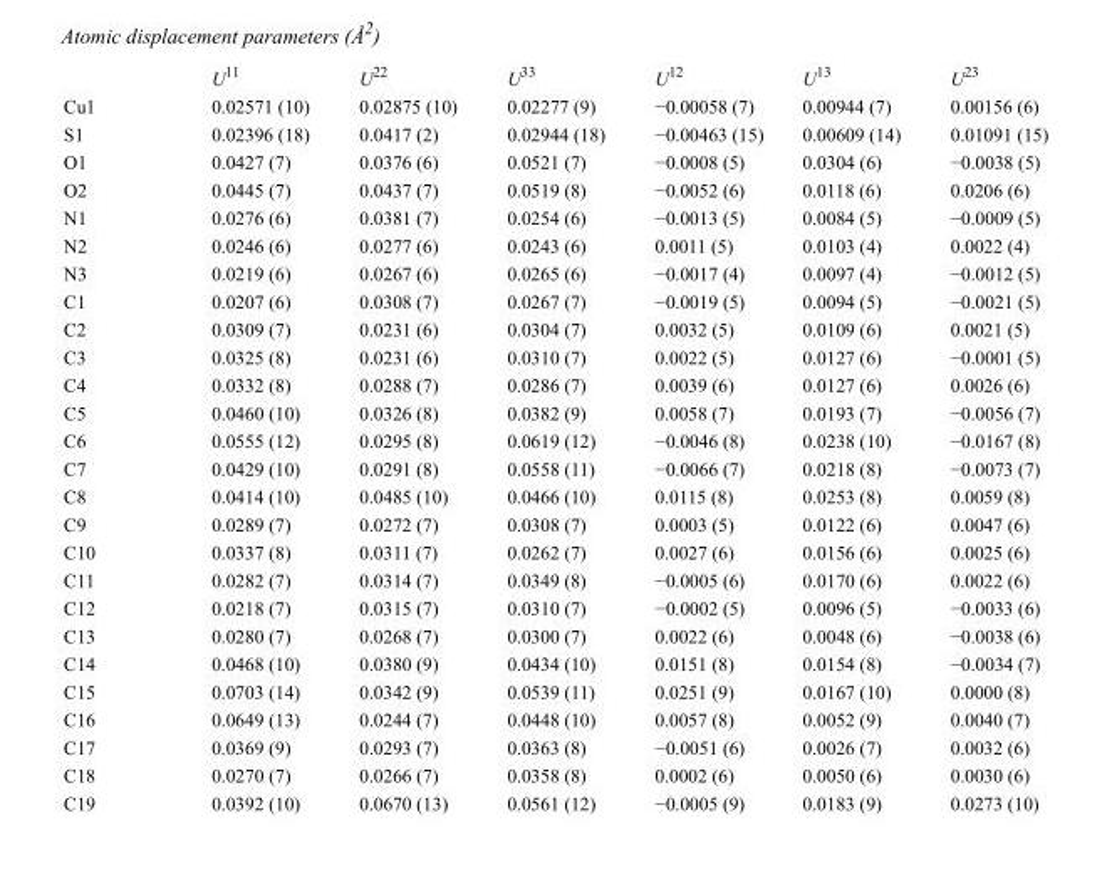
<table><thead><tr><td></td><td>U<sup>11</sup></td><td>U<sup>22</sup></td><td>U<sup>33</sup></td><td>U<sup>12</sup></td><td>U<sup>13</sup></td><td>U<sup>23</sup></td></tr></thead><tbody><tr><td>Cu1</td><td>0.02571 (10)</td><td>0.02875 (10)</td><td>0.02277 (9)</td><td>−0.00058 (7)</td><td>0.00944 (7)</td><td>0.00156 (6)</td></tr><tr><td>S1</td><td>0.02396 (18)</td><td>0.0417 (2)</td><td>0.02944 (18)</td><td>−0.00463 (15)</td><td>0.00609 (14)</td><td>0.01091 (15)</td></tr><tr><td>O1</td><td>0.0427 (7)</td><td>0.0376 (6)</td><td>0.0521 (7)</td><td>−0.0008 (5)</td><td>0.0304 (6)</td><td>−0.0038 (5)</td></tr><tr><td>O2</td><td>0.0445 (7)</td><td>0.0437 (7)</td><td>0.0519 (8)</td><td>−0.0052 (6)</td><td>0.0118 (6)</td><td>0.0206 (6)</td></tr><tr><td>N1</td><td>0.0276 (6)</td><td>0.0381 (7)</td><td>0.0254 (6)</td><td>−0.0013 (5)</td><td>0.0084 (5)</td><td>−0.0009 (5)</td></tr><tr><td>N2</td><td>0.0246 (6)</td><td>0.0277 (6)</td><td>0.0243 (6)</td><td>0.0011 (5)</td><td>0.0103 (4)</td><td>0.0022 (4)</td></tr><tr><td>N3</td><td>0.0219 (6)</td><td>0.0267 (6)</td><td>0.0265 (6)</td><td>−0.0017 (4)</td><td>0.0097 (4)</td><td>−0.0012 (5)</td></tr><tr><td>C1</td><td>0.0207 (6)</td><td>0.0308 (7)</td><td>0.0267 (7)</td><td>−0.0019 (5)</td><td>0.0094 (5)</td><td>−0.0021 (5)</td></tr><tr><td>C2</td><td>0.0309 (7)</td><td>0.0231 (6)</td><td>0.0304 (7)</td><td>0.0032 (5)</td><td>0.0109 (6)</td><td>0.0021 (5)</td></tr><tr><td>C3</td><td>0.0325 (8)</td><td>0.0231 (6)</td><td>0.0310 (7)</td><td>0.0022 (5)</td><td>0.0127 (6)</td><td>−0.0001 (5)</td></tr><tr><td>C4</td><td>0.0332 (8)</td><td>0.0288 (7)</td><td>0.0286 (7)</td><td>0.0039 (6)</td><td>0.0127 (6)</td><td>0.0026 (6)</td></tr><tr><td>C5</td><td>0.0460 (10)</td><td>0.0326 (8)</td><td>0.0382 (9)</td><td>0.0058 (7)</td><td>0.0193 (7)</td><td>−0.0056 (7)</td></tr><tr><td>C6</td><td>0.0555 (12)</td><td>0.0295 (8)</td><td>0.0619 (12)</td><td>−0.0046 (8)</td><td>0.0238 (10)</td><td>−0.0167 (8)</td></tr><tr><td>C7</td><td>0.0429 (10)</td><td>0.0291 (8)</td><td>0.0558 (11)</td><td>−0.0066 (7)</td><td>0.0218 (8)</td><td>−0.0073 (7)</td></tr><tr><td>C8</td><td>0.0414 (10)</td><td>0.0485 (10)</td><td>0.0466 (10)</td><td>0.0115 (8)</td><td>0.0253 (8)</td><td>0.0059 (8)</td></tr><tr><td>C9</td><td>0.0289 (7)</td><td>0.0272 (7)</td><td>0.0308 (7)</td><td>0.0003 (5)</td><td>0.0122 (6)</td><td>0.0047 (6)</td></tr><tr><td>C10</td><td>0.0337 (8)</td><td>0.0311 (7)</td><td>0.0262 (7)</td><td>0.0027 (6)</td><td>0.0156 (6)</td><td>0.0025 (6)</td></tr><tr><td>C11</td><td>0.0282 (7)</td><td>0.0314 (7)</td><td>0.0349 (8)</td><td>−0.0005 (6)</td><td>0.0170 (6)</td><td>0.0022 (6)</td></tr><tr><td>C12</td><td>0.0218 (7)</td><td>0.0315 (7)</td><td>0.0310 (7)</td><td>−0.0002 (5)</td><td>0.0096 (5)</td><td>−0.0033 (6)</td></tr><tr><td>C13</td><td>0.0280 (7)</td><td>0.0268 (7)</td><td>0.0300 (7)</td><td>0.0022 (6)</td><td>0.0048 (6)</td><td>−0.0038 (6)</td></tr><tr><td>C14</td><td>0.0468 (10)</td><td>0.0380 (9)</td><td>0.0434 (10)</td><td>0.0151 (8)</td><td>0.0154 (8)</td><td>−0.0034 (7)</td></tr><tr><td>C15</td><td>0.0703 (14)</td><td>0.0342 (9)</td><td>0.0539 (11)</td><td>0.0251 (9)</td><td>0.0167 (10)</td><td>0.0000 (8)</td></tr><tr><td>C16</td><td>0.0649 (13)</td><td>0.0244 (7)</td><td>0.0448 (10)</td><td>0.0057 (8)</td><td>0.0052 (9)</td><td>0.0040 (7)</td></tr><tr><td>C17</td><td>0.0369 (9)</td><td>0.0293 (7)</td><td>0.0363 (8)</td><td>−0.0051 (6)</td><td>0.0026 (7)</td><td>0.0032 (6)</td></tr><tr><td>C18</td><td>0.0270 (7)</td><td>0.0266 (7)</td><td>0.0358 (8)</td><td>0.0002 (6)</td><td>0.0050 (6)</td><td>0.0030 (6)</td></tr><tr><td>C19</td><td>0.0392 (10)</td><td>0.0670 (13)</td><td>0.0561 (12)</td><td>−0.0005 (9)</td><td>0.0183 (9)</td><td>0.0273 (10)</td></tr></tbody></table>